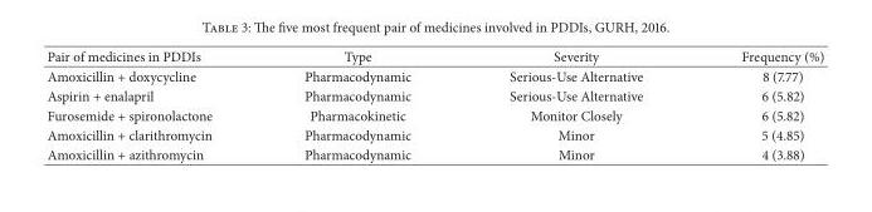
<table><thead><tr><td>Pair of medicines in PDDIs</td><td>Type</td><td>Severity</td><td>Frequency (%)</td></tr></thead><tbody><tr><td>Amoxicillin + doxycycline</td><td>Pharmacodynamic</td><td>Serious-Use Alternative</td><td>8 (7.77)</td></tr><tr><td>Aspirin + enalapril</td><td>Pharmacodynamic</td><td>Serious-Use Alternative</td><td>6 (5.82)</td></tr><tr><td>Furosemide + spironolactone</td><td>Pharmacokinetic</td><td>Monitor Closely</td><td>6 (5.82)</td></tr><tr><td>Amoxicillin + clarithromycin</td><td>Pharmacodynamic</td><td>Minor</td><td>5 (4.85)</td></tr><tr><td>Amoxicillin + azithromycin</td><td>Pharmacodynamic</td><td>Minor</td><td>4 (3.88)</td></tr></tbody></table>